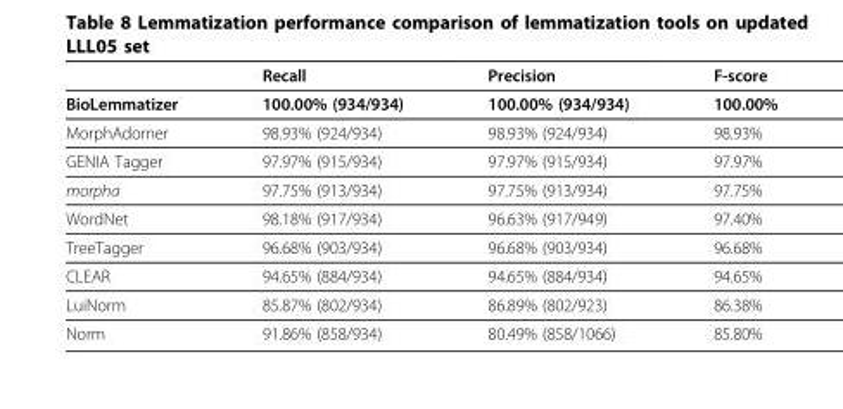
<table><thead><tr><td></td><td>Recall</td><td>Precision</td><td>F-score</td></tr></thead><tbody><tr><td>BioLemmatizer</td><td>100.00% (934/934)</td><td>100.00% (934/934)</td><td>100.00%</td></tr><tr><td>MorphAdorner</td><td>98.93% (924/934)</td><td>98.93% (924/934)</td><td>98.93%</td></tr><tr><td>GENIA Tagger</td><td>97.97% (915/934)</td><td>97.97% (915/934)</td><td>97.97%</td></tr><tr><td>morpha</td><td>97.75% (913/934)</td><td>97.75% (913/934)</td><td>97.75%</td></tr><tr><td>WordNet</td><td>98.18% (917/934)</td><td>96.63% (917/949)</td><td>97.40%</td></tr><tr><td>TreeTagger</td><td>96.68% (903/934)</td><td>96.68% (903/934)</td><td>96.68%</td></tr><tr><td>CLEAR</td><td>94.65% (884/934)</td><td>94.65% (884/934)</td><td>94.65%</td></tr><tr><td>LuiNorm</td><td>85.87% (802/934)</td><td>86.89% (802/923)</td><td>86.38%</td></tr><tr><td>Norm</td><td>91.86% (858/934)</td><td>80.49% (858/1066)</td><td>85.80%</td></tr></tbody></table>